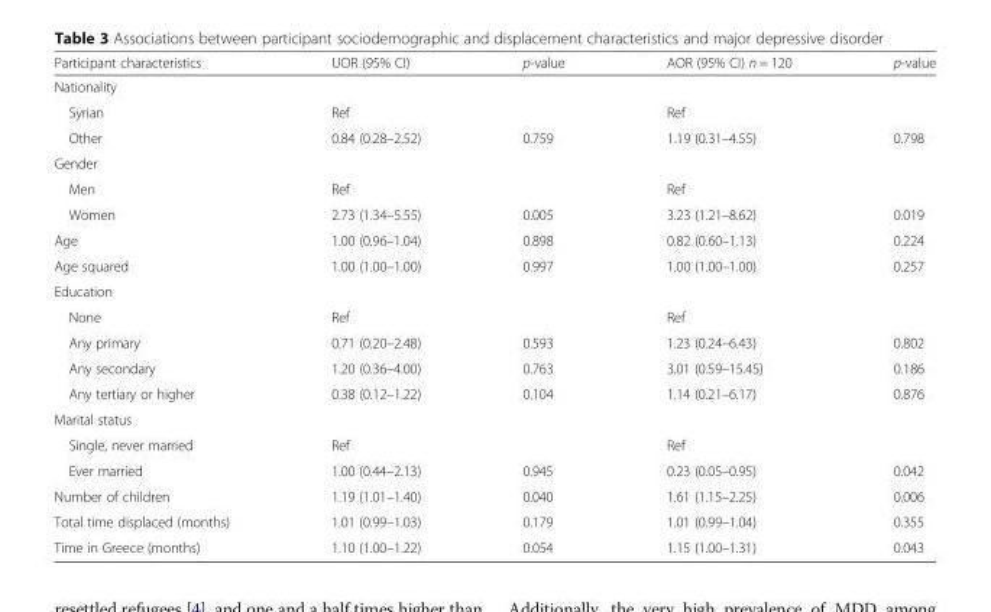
<table><thead><tr><td>Participant characteristics</td><td>UOR (95% CI)</td><td>p-value</td><td>AOR (95% CI) n = 120</td><td>p-value</td></tr></thead><tbody><tr><td colspan="5">Nationality</td></tr><tr><td>Syrian</td><td>Ref</td><td></td><td>Ref</td><td></td></tr><tr><td>Other</td><td>0.84 (0.28–2.52)</td><td>0.759</td><td>1.19 (0.31–4.55)</td><td>0.798</td></tr><tr><td colspan="5">Gender</td></tr><tr><td>Men</td><td>Ref</td><td></td><td>Ref</td><td></td></tr><tr><td>Women</td><td>2.73 (1.34–5.55)</td><td>0.005</td><td>3.23 (1.21–8.62)</td><td>0.019</td></tr><tr><td>Age</td><td>1.00 (0.96–1.04)</td><td>0.898</td><td>0.82 (0.60–1.13)</td><td>0.224</td></tr><tr><td>Age squared</td><td>1.00 (1.00–1.00)</td><td>0.997</td><td>1.00 (1.00–1.00)</td><td>0.257</td></tr><tr><td colspan="5">Education</td></tr><tr><td>None</td><td>Ref</td><td></td><td>Ref</td><td></td></tr><tr><td>Any primary</td><td>0.71 (0.20–2.48)</td><td>0.593</td><td>1.23 (0.24–6.43)</td><td>0.802</td></tr><tr><td>Any secondary</td><td>1.20 (0.36–4.00)</td><td>0.763</td><td>3.01 (0.59–15.45)</td><td>0.186</td></tr><tr><td>Any tertiary or higher</td><td>0.38 (0.12–1.22)</td><td>0.104</td><td>1.14 (0.21–6.17)</td><td>0.876</td></tr><tr><td colspan="5">Marital status</td></tr><tr><td>Single, never married</td><td>Ref</td><td></td><td>Ref</td><td></td></tr><tr><td>Ever married</td><td>1.00 (0.44–2.13)</td><td>0.945</td><td>0.23 (0.05–0.95)</td><td>0.042</td></tr><tr><td>Number of children</td><td>1.19 (1.01–1.40)</td><td>0.040</td><td>1.61 (1.15–2.25)</td><td>0.006</td></tr><tr><td>Total time displaced (months)</td><td>1.01 (0.99–1.03)</td><td>0.179</td><td>1.01 (0.99–1.04)</td><td>0.355</td></tr><tr><td>Time in Greece (months)</td><td>1.10 (1.00–1.22)</td><td>0.054</td><td>1.15 (1.00–1.31)</td><td>0.043</td></tr></tbody></table>